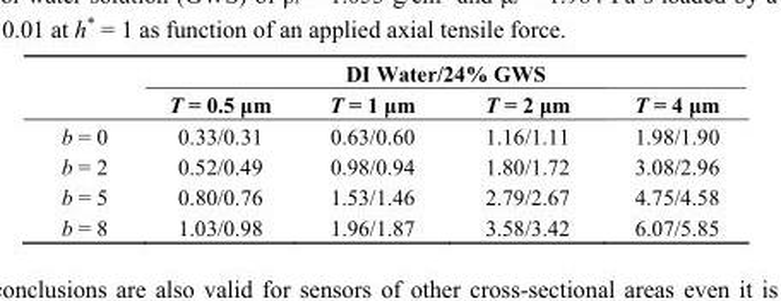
<table><thead><tr><td rowspan="2"></td><td colspan="4">DI Water/24% GWS</td></tr><tr><td>T = 0.5 μm</td><td>T = 1 μm</td><td>T = 2 μm</td><td>T = 4 μm</td></tr></thead><tbody><tr><td>b = 0</td><td>0.33/0.31</td><td>0.63/0.60</td><td>1.16/1.11</td><td>1.98/1.90</td></tr><tr><td>b = 2</td><td>0.52/0.49</td><td>0.98/0.94</td><td>1.80/1.72</td><td>3.08/2.96</td></tr><tr><td>b = 5</td><td>0.80/0.76</td><td>1.53/1.46</td><td>2.79/2.67</td><td>4.75/4.58</td></tr><tr><td>b = 8</td><td>1.03/0.98</td><td>1.96/1.87</td><td>3.58/3.42</td><td>6.07/5.85</td></tr></tbody></table>